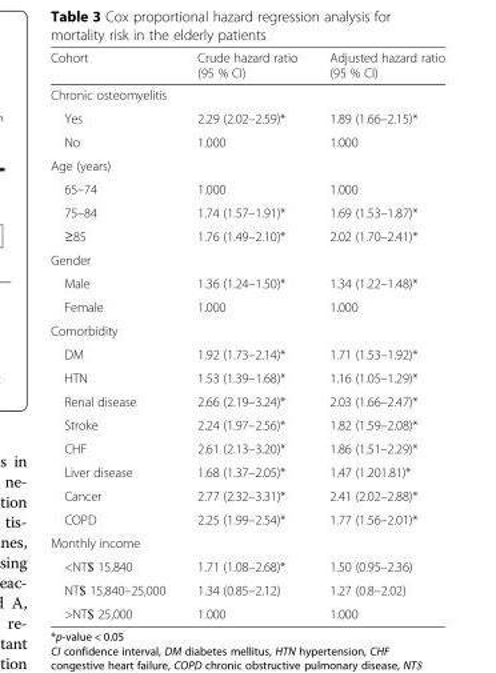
<table><thead><tr><td>Cohort</td><td>Crude hazard ratio (95 % CI)</td><td>Adjusted hazard ratio (95 % CI)</td></tr></thead><tbody><tr><td colspan="3">Chronic osteomyelitis</td></tr><tr><td>Yes</td><td>2.29 (2.02–2.59)*</td><td>1.89 (1.66–2.15)*</td></tr><tr><td>No</td><td>1.000</td><td>1.000</td></tr><tr><td colspan="3">Age (years)</td></tr><tr><td>65–74</td><td>1.000</td><td>1.000</td></tr><tr><td>75–84</td><td>1.74 (1.57–1.91)*</td><td>1.69 (1.53–1.87)*</td></tr><tr><td>≥85</td><td>1.76 (1.49–2.10)*</td><td>2.02 (1.70–2.41)*</td></tr><tr><td colspan="3">Gender</td></tr><tr><td>Male</td><td>1.36 (1.24–1.50)*</td><td>1.34 (1.22–1.48)*</td></tr><tr><td>Female</td><td>1.000</td><td>1.000</td></tr><tr><td colspan="3">Comorbidity</td></tr><tr><td>DM</td><td>1.92 (1.73–2.14)*</td><td>1.71 (1.53–1.92)*</td></tr><tr><td>HTN</td><td>1.53 (1.39–1.68)*</td><td>1.16 (1.05–1.29)*</td></tr><tr><td>Renal disease</td><td>2.66 (2.19–3.24)*</td><td>2.03 (1.66–2.47)*</td></tr><tr><td>Stroke</td><td>2.24 (1.97–2.56)*</td><td>1.82 (1.59–2.08)*</td></tr><tr><td>CHF</td><td>2.61 (2.13–3.20)*</td><td>1.86 (1.51–2.29)*</td></tr><tr><td>Liver disease</td><td>1.68 (1.37–2.05)*</td><td>1.47 (1.201.81)*</td></tr><tr><td>Cancer</td><td>2.77 (2.32–3.31)*</td><td>2.41 (2.02–2.88)*</td></tr><tr><td>COPD</td><td>2.25 (1.99–2.54)*</td><td>1.77 (1.56–2.01)*</td></tr><tr><td colspan="3">Monthly income</td></tr><tr><td>&lt;NT$ 15,840</td><td>1.71 (1.08–2.68)*</td><td>1.50 (0.95–2.36)</td></tr><tr><td>NT$ 15,840–25,000</td><td>1.34 (0.85–2.12)</td><td>1.27 (0.8–2.02)</td></tr><tr><td>&gt;NT$ 25,000</td><td>1.000</td><td>1.000</td></tr></tbody></table>